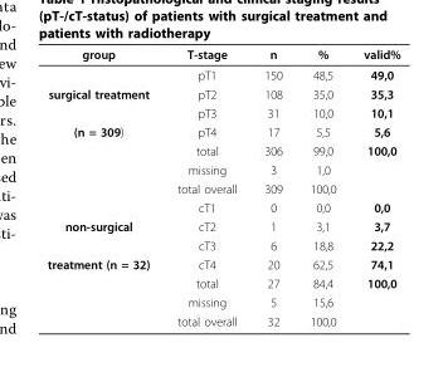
<table><thead><tr><td>group</td><td>T-stage</td><td>n</td><td>%</td><td>valid%</td></tr></thead><tbody><tr><td></td><td>pT1</td><td>150</td><td>48,5</td><td>49,0</td></tr><tr><td rowspan="2">surgical treatment</td><td>pT2</td><td>108</td><td>35,0</td><td>35,3</td></tr><tr><td>pT3</td><td>31</td><td>10,0</td><td>10,1</td></tr><tr><td rowspan="5">(n = 309)</td><td>pT4</td><td>17</td><td>5,5</td><td>5,6</td></tr><tr><td>total</td><td>306</td><td>99,0</td><td>100,0</td></tr><tr><td>missing</td><td>3</td><td>1,0</td><td></td></tr><tr><td>total overall</td><td>309</td><td>100,0</td><td></td></tr><tr><td>cT1</td><td>0</td><td>0,0</td><td>0,0</td></tr><tr><td rowspan="2">non-surgical</td><td>cT2</td><td>1</td><td>3,1</td><td>3,7</td></tr><tr><td>cT3</td><td>6</td><td>18,8</td><td>22,2</td></tr><tr><td rowspan="4">treatment (n = 32)</td><td>cT4</td><td>20</td><td>62,5</td><td>74,1</td></tr><tr><td>total</td><td>27</td><td>84,4</td><td>100,0</td></tr><tr><td>missing</td><td>5</td><td>15,6</td><td></td></tr><tr><td>total overall</td><td>32</td><td>100,0</td><td></td></tr></tbody></table>